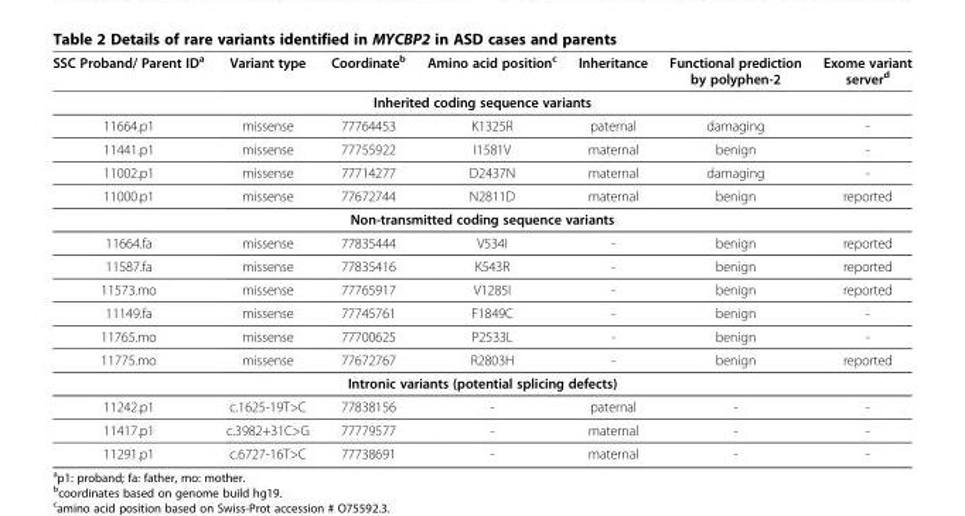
<table><thead><tr><td>SSC Proband/ Parent ID<sup>a</sup></td><td>Variant type</td><td>Coordinate<sup>b</sup></td><td>Amino acid position<sup>c</sup></td><td>Inheritance</td><td>Functional prediction by polyphen-2</td><td>Exome variant server<sup>d</sup></td></tr></thead><tbody><tr><td colspan="7">Inherited coding sequence variants</td></tr><tr><td>11664.p1</td><td>missense</td><td>77764453</td><td>K1325R</td><td>paternal</td><td>damaging</td><td>-</td></tr><tr><td>11441.p1</td><td>missense</td><td>77755922</td><td>I1581V</td><td>maternal</td><td>benign</td><td>-</td></tr><tr><td>11002.p1</td><td>missense</td><td>77714277</td><td>D2437N</td><td>maternal</td><td>damaging</td><td>-</td></tr><tr><td>11000.p1</td><td>missense</td><td>77672744</td><td>N2811D</td><td>maternal</td><td>benign</td><td>reported</td></tr><tr><td colspan="7">Non-transmitted coding sequence variants</td></tr><tr><td>11664.fa</td><td>missense</td><td>77835444</td><td>V534I</td><td>-</td><td>benign</td><td>reported</td></tr><tr><td>11587.fa</td><td>missense</td><td>77835416</td><td>K543R</td><td>-</td><td>benign</td><td>reported</td></tr><tr><td>11573.mo</td><td>missense</td><td>77765917</td><td>V1285I</td><td>-</td><td>benign</td><td>reported</td></tr><tr><td>11149.fa</td><td>missense</td><td>77745761</td><td>F1849C</td><td>-</td><td>benign</td><td>-</td></tr><tr><td>11765.mo</td><td>missense</td><td>77700625</td><td>P2533L</td><td>-</td><td>benign</td><td>-</td></tr><tr><td>11775.mo</td><td>missense</td><td>77672767</td><td>R2803H</td><td>-</td><td>benign</td><td>reported</td></tr><tr><td colspan="7">Intronic variants (potential splicing defects)</td></tr><tr><td>11242.p1</td><td>c.1625-19T&gt;C</td><td>77838156</td><td>-</td><td>paternal</td><td>-</td><td>-</td></tr><tr><td>11417.p1</td><td>c.3982+31C&gt;G</td><td>77779577</td><td>-</td><td>maternal</td><td>-</td><td>-</td></tr><tr><td>11291.p1</td><td>c.6727-16T&gt;C</td><td>77738691</td><td>-</td><td>maternal</td><td>-</td><td>-</td></tr></tbody></table>